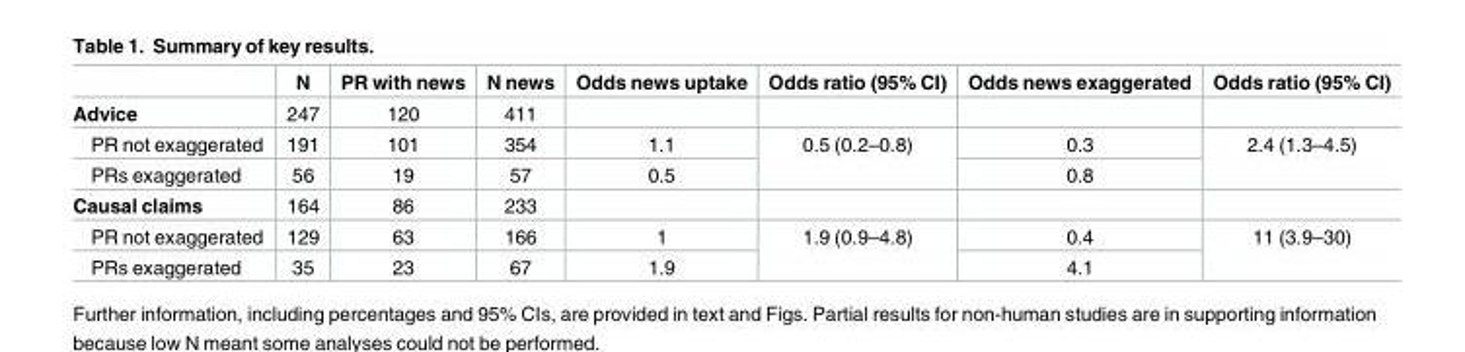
<table><thead><tr><td></td><td>N</td><td>PR with news</td><td>N news</td><td>Odds news uptake</td><td>Odds ratio (95% CI)</td><td>Odds news exaggerated</td><td>Odds ratio (95% CI)</td></tr></thead><tbody><tr><td>Advice</td><td>247</td><td>120</td><td>411</td><td></td><td></td><td></td><td></td></tr><tr><td>PR not exaggerated</td><td>191</td><td>101</td><td>354</td><td>1.1</td><td rowspan="2">0.5 (0.2–0.8)</td><td>0.3</td><td rowspan="2">2.4 (1.3–4.5)</td></tr><tr><td>PRs exaggerated</td><td>56</td><td>19</td><td>57</td><td>0.5</td><td>0.8</td></tr><tr><td>Causal claims</td><td>164</td><td>86</td><td>233</td><td></td><td></td><td></td><td></td></tr><tr><td>PR not exaggerated</td><td>129</td><td>63</td><td>166</td><td>1</td><td rowspan="2">1.9 (0.9–4.8)</td><td>0.4</td><td rowspan="2">11 (3.9–30)</td></tr><tr><td>PRs exaggerated</td><td>35</td><td>23</td><td>67</td><td>1.9</td><td>4.1</td></tr></tbody></table>